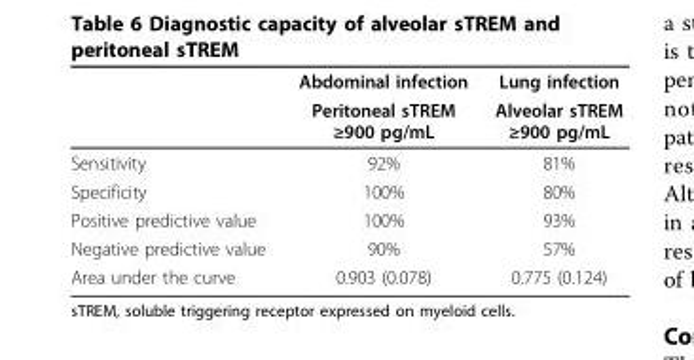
<table><thead><tr><td rowspan="2"></td><td rowspan="2">Abdominal infection Peritoneal sTREM ≥900 pg/mL</td><td rowspan="2">Lung infection Alveolar sTREM ≥900 pg/mL</td></tr><tr></tr></thead><tbody><tr><td>Sensitivity</td><td>92%</td><td>81%</td></tr><tr><td>Specificity</td><td>100%</td><td>80%</td></tr><tr><td>Positive predictive value</td><td>100%</td><td>93%</td></tr><tr><td>Negative predictive value</td><td>90%</td><td>57%</td></tr><tr><td>Area under the curve</td><td>0.903 (0.078)</td><td>0.775 (0.124)</td></tr></tbody></table>